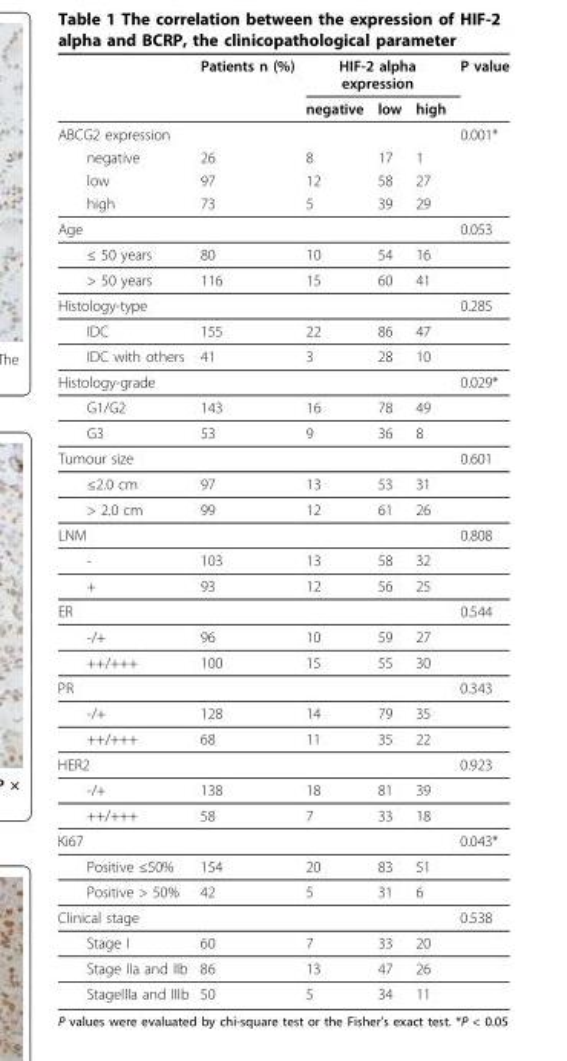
<table><thead><tr><td rowspan="2"></td><td rowspan="2">Patients n (%)</td><td colspan="3">HIF-2 alpha expression</td><td rowspan="2">P value</td></tr><tr><td>negative</td><td>low</td><td>high</td></tr></thead><tbody><tr><td>ABCG2 expression</td><td></td><td></td><td></td><td></td><td>0.001*</td></tr><tr><td>negative</td><td>26</td><td>8</td><td>17</td><td>1</td><td></td></tr><tr><td>low</td><td>97</td><td>12</td><td>58</td><td>27</td><td></td></tr><tr><td>high</td><td>73</td><td>5</td><td>39</td><td>29</td><td></td></tr><tr><td>Age</td><td></td><td></td><td></td><td></td><td>0.053</td></tr><tr><td>≤ 50 years</td><td>80</td><td>10</td><td>54</td><td>16</td><td></td></tr><tr><td>&gt; 50 years</td><td>116</td><td>15</td><td>60</td><td>41</td><td></td></tr><tr><td>Histology-type</td><td></td><td></td><td></td><td></td><td>0.285</td></tr><tr><td>IDC</td><td>155</td><td>22</td><td>86</td><td>47</td><td></td></tr><tr><td>IDC with others</td><td>41</td><td>3</td><td>28</td><td>10</td><td></td></tr><tr><td>Histology-grade</td><td></td><td></td><td></td><td></td><td>0.029*</td></tr><tr><td>G1/G2</td><td>143</td><td>16</td><td>78</td><td>49</td><td></td></tr><tr><td>G3</td><td>53</td><td>9</td><td>36</td><td>8</td><td></td></tr><tr><td>Tumour size</td><td></td><td></td><td></td><td></td><td>0.601</td></tr><tr><td>≤2.0 cm</td><td>97</td><td>13</td><td>53</td><td>31</td><td></td></tr><tr><td>&gt; 2.0 cm</td><td>99</td><td>12</td><td>61</td><td>26</td><td></td></tr><tr><td>LNM</td><td></td><td></td><td></td><td></td><td>0.808</td></tr><tr><td>-</td><td>103</td><td>13</td><td>58</td><td>32</td><td></td></tr><tr><td>+</td><td>93</td><td>12</td><td>56</td><td>25</td><td></td></tr><tr><td>ER</td><td></td><td></td><td></td><td></td><td>0.544</td></tr><tr><td>-/+</td><td>96</td><td>10</td><td>59</td><td>27</td><td></td></tr><tr><td>++/+++</td><td>100</td><td>15</td><td>55</td><td>30</td><td></td></tr><tr><td>PR</td><td></td><td></td><td></td><td></td><td>0.343</td></tr><tr><td>-/+</td><td>128</td><td>14</td><td>79</td><td>35</td><td></td></tr><tr><td>++/+++</td><td>68</td><td>11</td><td>35</td><td>22</td><td></td></tr><tr><td>HER2</td><td></td><td></td><td></td><td></td><td>0.923</td></tr><tr><td>-/+</td><td>138</td><td>18</td><td>81</td><td>39</td><td></td></tr><tr><td>++/+++</td><td>58</td><td>7</td><td>33</td><td>18</td><td></td></tr><tr><td>Ki67</td><td></td><td></td><td></td><td></td><td>0.043*</td></tr><tr><td>Positive ≤50%</td><td>154</td><td>20</td><td>83</td><td>51</td><td></td></tr><tr><td>Positive &gt; 50%</td><td>42</td><td>5</td><td>31</td><td>6</td><td></td></tr><tr><td>Clinical stage</td><td></td><td></td><td></td><td></td><td>0.538</td></tr><tr><td>Stage I</td><td>60</td><td>7</td><td>33</td><td>20</td><td></td></tr><tr><td>Stage IIa and IIb</td><td>86</td><td>13</td><td>47</td><td>26</td><td></td></tr><tr><td>StageIIIa and IIIb</td><td>50</td><td>5</td><td>34</td><td>11</td><td></td></tr></tbody></table>